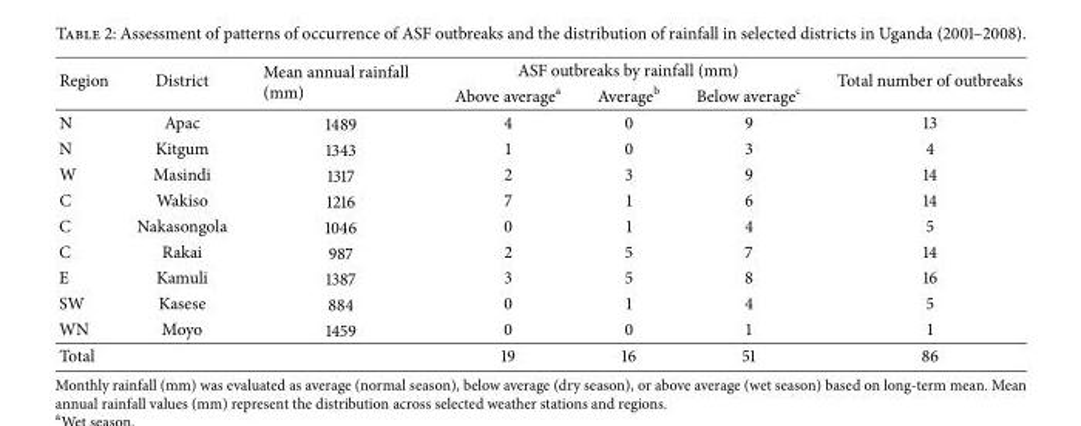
<table><thead><tr><td rowspan="2">Region</td><td rowspan="2">District</td><td rowspan="2">Mean annual rainfall (mm)</td><td colspan="3">ASF outbreaks by rainfall (mm)</td><td rowspan="2">Total number of outbreaks</td></tr><tr><td>Above average<sup>a</sup></td><td>Average<sup>b</sup></td><td>Below average<sup>c</sup></td></tr></thead><tbody><tr><td>N</td><td>Apac</td><td>1489</td><td>4</td><td>0</td><td>9</td><td>13</td></tr><tr><td>N</td><td>Kitgum</td><td>1343</td><td>1</td><td>0</td><td>3</td><td>4</td></tr><tr><td>W</td><td>Masindi</td><td>1317</td><td>2</td><td>3</td><td>9</td><td>14</td></tr><tr><td>C</td><td>Wakiso</td><td>1216</td><td>7</td><td>1</td><td>6</td><td>14</td></tr><tr><td>C</td><td>Nakasongola</td><td>1046</td><td>0</td><td>1</td><td>4</td><td>5</td></tr><tr><td>C</td><td>Rakai</td><td>987</td><td>2</td><td>5</td><td>7</td><td>14</td></tr><tr><td>E</td><td>Kamuli</td><td>1387</td><td>3</td><td>5</td><td>8</td><td>16</td></tr><tr><td>SW</td><td>Kasese</td><td>884</td><td>0</td><td>1</td><td>4</td><td>5</td></tr><tr><td>WN</td><td>Moyo</td><td>1459</td><td>0</td><td>0</td><td>1</td><td>1</td></tr><tr><td>Total</td><td></td><td></td><td>19</td><td>16</td><td>51</td><td>86</td></tr></tbody></table>